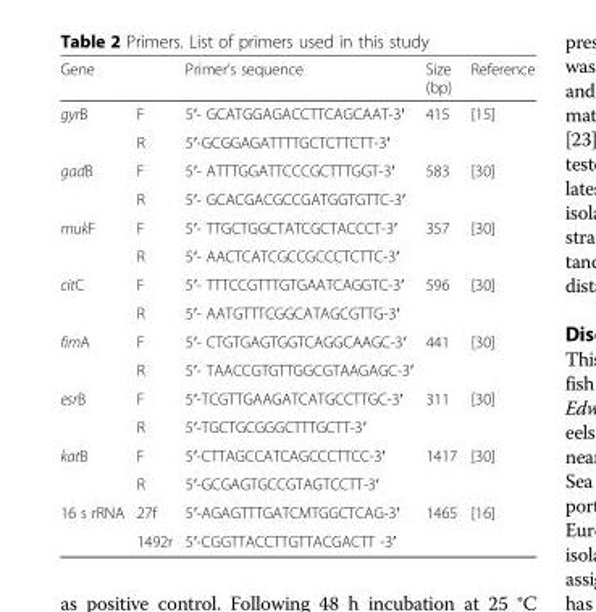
<table><thead><tr><td>Gene</td><td></td><td>Primer’s sequence</td><td>Size (bp)</td><td>Reference</td></tr></thead><tbody><tr><td rowspan="2">gyrB</td><td>F</td><td>5′- GCATGGAGACCTTCAGCAAT-3′</td><td>415</td><td>[15]</td></tr><tr><td>R</td><td>5′-GCGGAGATTTTGCTCTTCTT-3′</td><td></td><td></td></tr><tr><td rowspan="2">gadB</td><td>F</td><td>5′- ATTTGGATTCCCGCTTTGGT-3′</td><td>583</td><td>[30]</td></tr><tr><td>R</td><td>5′- GCACGACGCCGATGGTGTTC-3′</td><td></td><td></td></tr><tr><td rowspan="2">mukF</td><td>F</td><td>5′- TTGCTGGCTATCGCTACCCT-3′</td><td>357</td><td>[30]</td></tr><tr><td>R</td><td>5′- AACTCATCGCCGCCCTCTTC-3′</td><td></td><td></td></tr><tr><td rowspan="2">citC</td><td>F</td><td>5′- TTTCCGTTTGTGAATCAGGTC-3′</td><td>596</td><td>[30]</td></tr><tr><td>R</td><td>5′- AATGTTTCGGCATAGCGTTG-3′</td><td></td><td></td></tr><tr><td rowspan="2">fimA</td><td>F</td><td>5′- CTGTGAGTGGTCAGGCAAGC-3′</td><td>441</td><td>[30]</td></tr><tr><td>R</td><td>5′- TAACCGTGTTGGCGTAAGAGC-3′</td><td></td><td></td></tr><tr><td rowspan="2">esrB</td><td>F</td><td>5′-TCGTTGAAGATCATGCCTTGC-3′</td><td>311</td><td>[30]</td></tr><tr><td>R</td><td>5′-TGCTGCGGGCTTTGCTT-3′</td><td></td><td></td></tr><tr><td rowspan="2">katB</td><td>F</td><td>5′-CTTAGCCATCAGCCCTTCC-3′</td><td>1417</td><td>[30]</td></tr><tr><td>R</td><td>5′-GCGAGTGCCGTAGTCCTT-3′</td><td></td><td></td></tr><tr><td rowspan="2">16 s rRNA</td><td>27f</td><td>5′-AGAGTTTGATCMTGGCTCAG-3′</td><td>1465</td><td>[16]</td></tr><tr><td>1492r</td><td>5′-CGGTTACCTTGTTACGACTT -3′</td><td></td><td></td></tr></tbody></table>